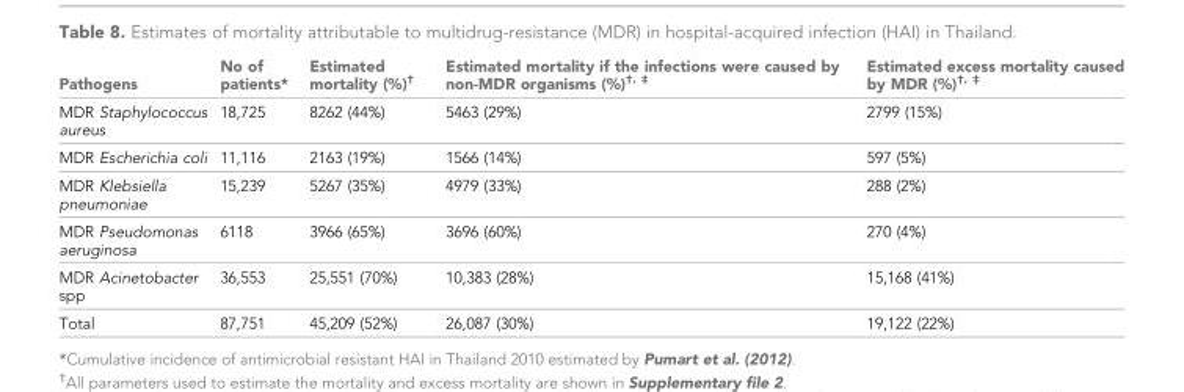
<table><thead><tr><td>Pathogens</td><td>No of patients*</td><td>Estimated mortality (%)<sup>†</sup></td><td>Estimated mortality if the infections were caused by non-MDR organisms (%)<sup>†, ‡</sup></td><td>Estimated excess mortality caused by MDR (%)<sup>†, ‡</sup></td></tr></thead><tbody><tr><td>MDR Staphylococcus aureus</td><td>18,725</td><td>8262 (44%)</td><td>5463 (29%)</td><td>2799 (15%)</td></tr><tr><td>MDR Escherichia coli</td><td>11,116</td><td>2163 (19%)</td><td>1566 (14%)</td><td>597 (5%)</td></tr><tr><td>MDR Klebsiella pneumoniae</td><td>15,239</td><td>5267 (35%)</td><td>4979 (33%)</td><td>288 (2%)</td></tr><tr><td>MDR Pseudomonas aeruginosa</td><td>6118</td><td>3966 (65%)</td><td>3696 (60%)</td><td>270 (4%)</td></tr><tr><td>MDR Acinetobacter spp</td><td>36,553</td><td>25,551 (70%)</td><td>10,383 (28%)</td><td>15,168 (41%)</td></tr><tr><td>Total</td><td>87,751</td><td>45,209 (52%)</td><td>26,087 (30%)</td><td>19,122 (22%)</td></tr></tbody></table>